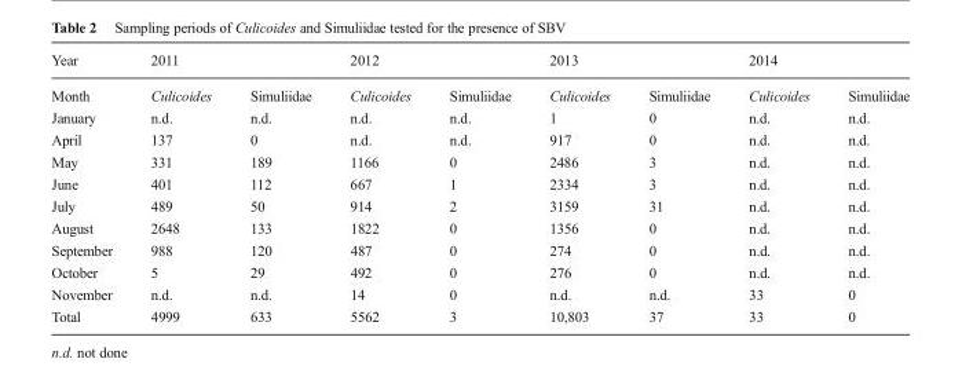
<table><thead><tr><td rowspan="2">Year Month</td><td colspan="2">2011</td><td colspan="2">2012</td><td colspan="2">2013</td><td colspan="2">2014</td></tr><tr><td>Culicoides</td><td>Simuliidae</td><td>Culicoides</td><td>Simuliidae</td><td>Culicoides</td><td>Simuliidae</td><td>Culicoides</td><td>Simuliidae</td></tr></thead><tbody><tr><td>January</td><td>n.d.</td><td>n.d.</td><td>n.d.</td><td>n.d.</td><td>1</td><td>0</td><td>n.d.</td><td>n.d.</td></tr><tr><td>April</td><td>137</td><td>0</td><td>n.d.</td><td>n.d.</td><td>917</td><td>0</td><td>n.d.</td><td>n.d.</td></tr><tr><td>May</td><td>331</td><td>189</td><td>1166</td><td>0</td><td>2486</td><td>3</td><td>n.d.</td><td>n.d.</td></tr><tr><td>June</td><td>401</td><td>112</td><td>667</td><td>1</td><td>2334</td><td>3</td><td>n.d.</td><td>n.d.</td></tr><tr><td>July</td><td>489</td><td>50</td><td>914</td><td>2</td><td>3159</td><td>31</td><td>n.d.</td><td>n.d.</td></tr><tr><td>August</td><td>2648</td><td>133</td><td>1822</td><td>0</td><td>1356</td><td>0</td><td>n.d.</td><td>n.d.</td></tr><tr><td>September</td><td>988</td><td>120</td><td>487</td><td>0</td><td>274</td><td>0</td><td>n.d.</td><td>n.d.</td></tr><tr><td>October</td><td>5</td><td>29</td><td>492</td><td>0</td><td>276</td><td>0</td><td>n.d.</td><td>n.d.</td></tr><tr><td>November</td><td>n.d.</td><td>n.d.</td><td>14</td><td>0</td><td>n.d.</td><td>n.d.</td><td>33</td><td>0</td></tr><tr><td>Total</td><td>4999</td><td>633</td><td>5562</td><td>3</td><td>10,803</td><td>37</td><td>33</td><td>0</td></tr></tbody></table>